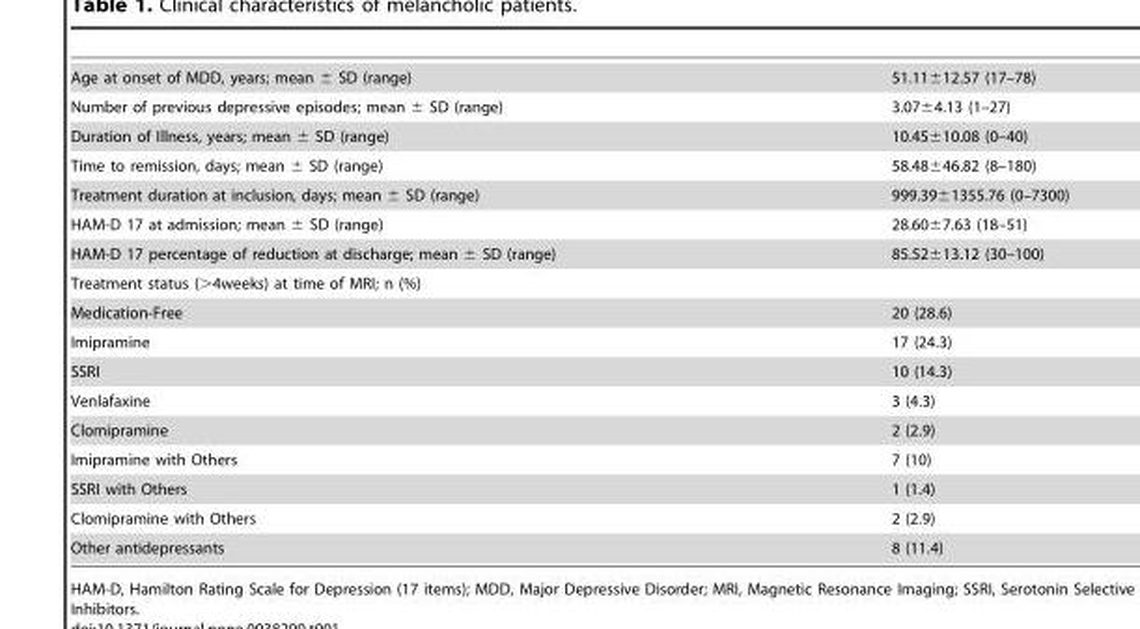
<table><tbody><tr><td>Age at onset of MDD, years; mean ± SD (range)</td><td>51.11±12.57 (17–78)</td></tr><tr><td>Number of previous depressive episodes; mean ± SD (range)</td><td>3.07±4.13 (1–27)</td></tr><tr><td>Duration of Illness, years; mean ± SD (range)</td><td>10.45±10.08 (0–40)</td></tr><tr><td>Time to remission, days; mean ± SD (range)</td><td>58.48±46.82 (8–180)</td></tr><tr><td>Treatment duration at inclusion, days; mean ± SD (range)</td><td>999.39±1355.76 (0–7300)</td></tr><tr><td>HAM-D 17 at admission; mean ± SD (range)</td><td>28.60±7.63 (18–51)</td></tr><tr><td>HAM-D 17 percentage of reduction at discharge; mean ± SD (range)</td><td>85.52±13.12 (30–100)</td></tr><tr><td colspan="2">Treatment status (&gt;4weeks) at time of MRI; n (%)</td></tr><tr><td>Medication-Free</td><td>20 (28.6)</td></tr><tr><td>Imipramine</td><td>17 (24.3)</td></tr><tr><td>SSRI</td><td>10 (14.3)</td></tr><tr><td>Venlafaxine</td><td>3 (4.3)</td></tr><tr><td>Clomipramine</td><td>2 (2.9)</td></tr><tr><td>Imipramine with Others</td><td>7 (10)</td></tr><tr><td>SSRI with Others</td><td>1 (1.4)</td></tr><tr><td>Clomipramine with Others</td><td>2 (2.9)</td></tr><tr><td>Other antidepressants</td><td>8 (11.4)</td></tr></tbody></table>